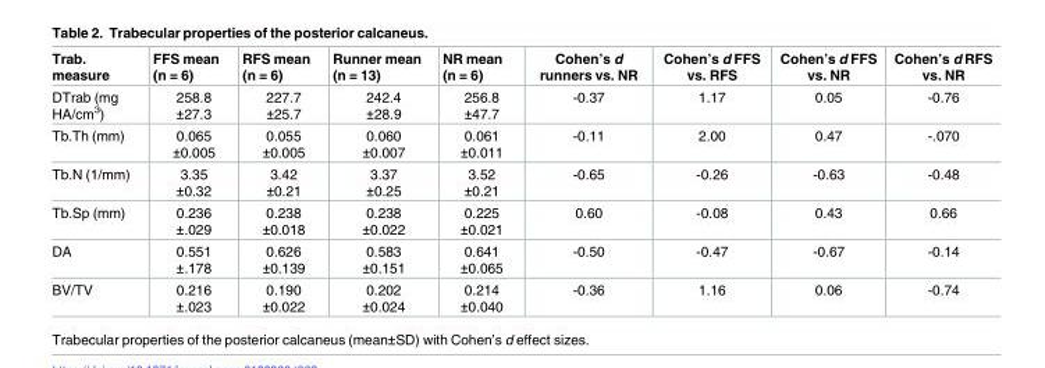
<table><thead><tr><td>Trab. measure</td><td>FFS mean (n = 6)</td><td>RFS mean (n = 6)</td><td>Runner mean (n = 13)</td><td>NR mean (n = 6)</td><td>Cohen’s d runners vs. NR</td><td>Cohen’s d FFS vs. RFS</td><td>Cohen’s d FFS vs. NR</td><td>Cohen’s d RFS vs. NR</td></tr></thead><tbody><tr><td>DTrab (mg HA/cm<sup>3</sup>)</td><td>258.8 ±27.3</td><td>227.7 ±25.7</td><td>242.4 ±28.9</td><td>256.8 ±47.7</td><td>-0.37</td><td>1.17</td><td>0.05</td><td>-0.76</td></tr><tr><td>Tb.Th (mm)</td><td>0.065 ±0.005</td><td>0.055 ±0.005</td><td>0.060 ±0.007</td><td>0.061 ±0.011</td><td>-0.11</td><td>2.00</td><td>0.47</td><td>-.070</td></tr><tr><td>Tb.N (1/mm)</td><td>3.35 ±0.32</td><td>3.42 ±0.21</td><td>3.37 ±0.25</td><td>3.52 ±0.21</td><td>-0.65</td><td>-0.26</td><td>-0.63</td><td>-0.48</td></tr><tr><td>Tb.Sp (mm)</td><td>0.236 ±.029</td><td>0.238 ±0.018</td><td>0.238 ±0.022</td><td>0.225 ±0.021</td><td>0.60</td><td>-0.08</td><td>0.43</td><td>0.66</td></tr><tr><td>DA</td><td>0.551 ±.178</td><td>0.626 ±0.139</td><td>0.583 ±0.151</td><td>0.641 ±0.065</td><td>-0.50</td><td>-0.47</td><td>-0.67</td><td>-0.14</td></tr><tr><td>BV/TV</td><td>0.216 ±.023</td><td>0.190 ±0.022</td><td>0.202 ±0.024</td><td>0.214 ±0.040</td><td>-0.36</td><td>1.16</td><td>0.06</td><td>-0.74</td></tr></tbody></table>